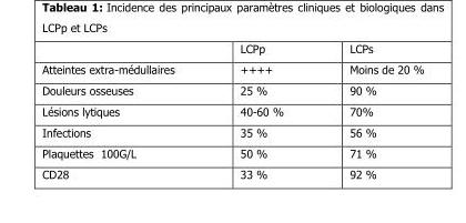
<table><thead><tr><td></td><td>LCPp</td><td>LCPs</td></tr></thead><tbody><tr><td>Atteintes extra-médullaires</td><td>++++</td><td>Moins de 20 %</td></tr><tr><td>Douleurs osseuses</td><td>25 %</td><td>90 %</td></tr><tr><td>Lésions lytiques</td><td>40-60 %</td><td>70%</td></tr><tr><td>Infections</td><td>35 %</td><td>56 %</td></tr><tr><td>Plaquettes 100G/L</td><td>50 %</td><td>71 %</td></tr><tr><td>CD28</td><td>33 %</td><td>92 %</td></tr></tbody></table>